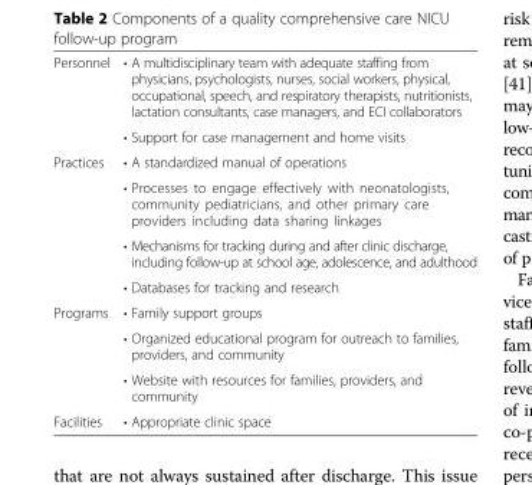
<table><tbody><tr><td rowspan="2">Personnel</td><td>• A multidisciplinary team with adequate staffing from physicians, psychologists, nurses, social workers, physical, occupational, speech, and respiratory therapists, nutritionists, lactation consultants, case managers, and ECI collaborators</td></tr><tr><td>• Support for case management and home visits</td></tr><tr><td rowspan="4">Practices</td><td>• A standardized manual of operations</td></tr><tr><td>• Processes to engage effectively with neonatologists, community pediatricians, and other primary care providers including data sharing linkages</td></tr><tr><td>• Mechanisms for tracking during and after clinic discharge, including follow-up at school age, adolescence, and adulthood</td></tr><tr><td>• Databases for tracking and research</td></tr><tr><td rowspan="3">Programs</td><td>• Family support groups</td></tr><tr><td>• Organized educational program for outreach to families, providers, and community</td></tr><tr><td>• Website with resources for families, providers, and community</td></tr><tr><td>Facilities</td><td>• Appropriate clinic space</td></tr></tbody></table>